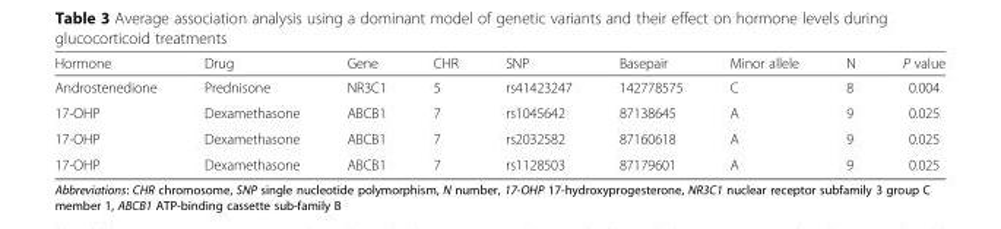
<table><thead><tr><td>Hormone</td><td>Drug</td><td>Gene</td><td>CHR</td><td>SNP</td><td>Basepair</td><td>Minor allele</td><td>N</td><td>P value</td></tr></thead><tbody><tr><td>Androstenedione</td><td>Prednisone</td><td>NR3C1</td><td>5</td><td>rs41423247</td><td>142778575</td><td>C</td><td>8</td><td>0.004</td></tr><tr><td>17-OHP</td><td>Dexamethasone</td><td>ABCB1</td><td>7</td><td>rs1045642</td><td>87138645</td><td>A</td><td>9</td><td>0.025</td></tr><tr><td>17-OHP</td><td>Dexamethasone</td><td>ABCB1</td><td>7</td><td>rs2032582</td><td>87160618</td><td>A</td><td>9</td><td>0.025</td></tr><tr><td>17-OHP</td><td>Dexamethasone</td><td>ABCB1</td><td>7</td><td>rs1128503</td><td>87179601</td><td>A</td><td>9</td><td>0.025</td></tr></tbody></table>